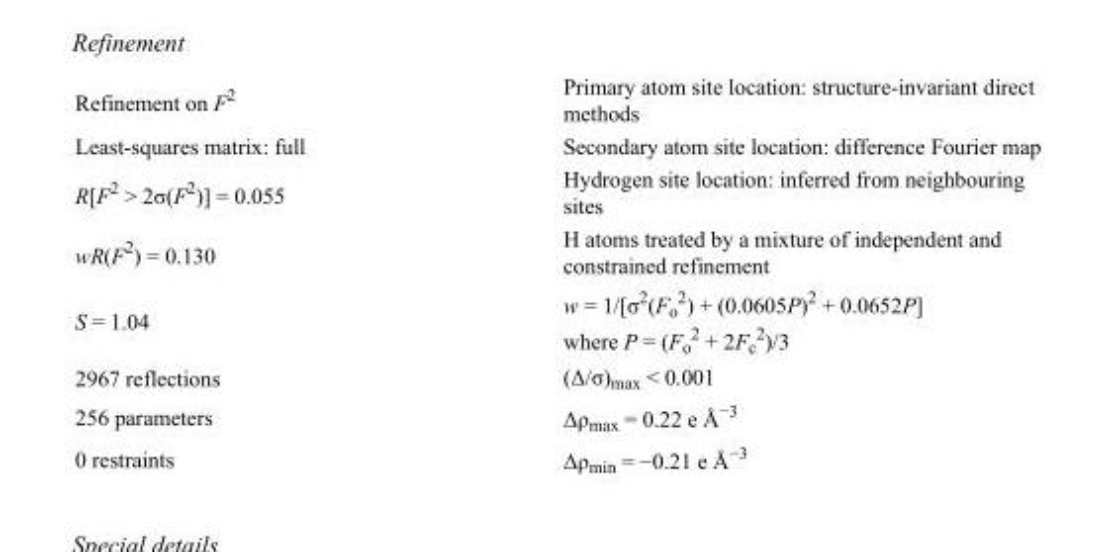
<table><tbody><tr><td>Refinement on F<sup>2</sup></td><td>Primary atom site location: structure-invariant direct methods</td></tr><tr><td>Least-squares matrix: full</td><td>Secondary atom site location: difference Fourier map</td></tr><tr><td>R[F<sup>2</sup> &gt; 2σ(F<sup>2</sup>)] = 0.055</td><td>Hydrogen site location: inferred from neighbouring sites</td></tr><tr><td>wR(F<sup>2</sup>) = 0.130</td><td>H atoms treated by a mixture of independent and constrained refinement</td></tr><tr><td>S = 1.04</td><td>w = 1/[σ<sup>2</sup>(F<sub>o</sub> <sup>2</sup>) + (0.0605P)<sup>2</sup> + 0.0652P] where P = (F<sub>o</sub> <sup>2</sup> + 2F<sub>c</sub> <sup>2</sup>)/3</td></tr><tr><td>2967 reflections</td><td>(Δ/σ)<sub>max</sub> &lt; 0.001</td></tr><tr><td>256 parameters</td><td>Δρ<sub>max</sub> = 0.22 e Å<sup>−3</sup></td></tr><tr><td>0 restraints</td><td>Δρ<sub>min</sub> = −0.21 e Å<sup>−3</sup></td></tr></tbody></table>